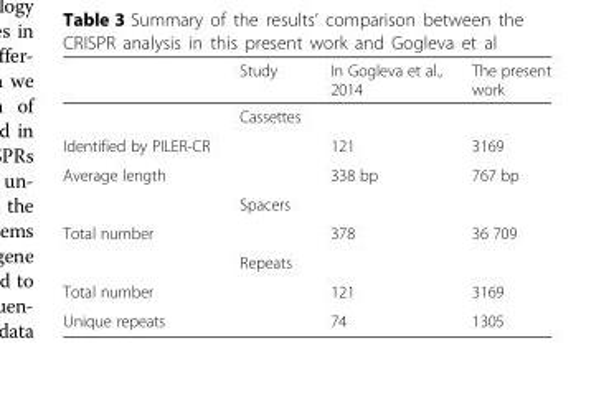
<table><thead><tr><td></td><td>Study</td><td>In Gogleva et al., 2014</td><td>The present work</td></tr></thead><tbody><tr><td></td><td>Cassettes</td><td></td><td></td></tr><tr><td>Identified by PILER-CR</td><td></td><td>121</td><td>3169</td></tr><tr><td rowspan="2">Average length</td><td></td><td>338 bp</td><td>767 bp</td></tr><tr><td>Spacers</td><td></td><td></td></tr><tr><td rowspan="2">Total number</td><td></td><td>378</td><td>36 709</td></tr><tr><td>Repeats</td><td></td><td></td></tr><tr><td>Total number</td><td></td><td>121</td><td>3169</td></tr><tr><td>Unique repeats</td><td></td><td>74</td><td>1305</td></tr></tbody></table>